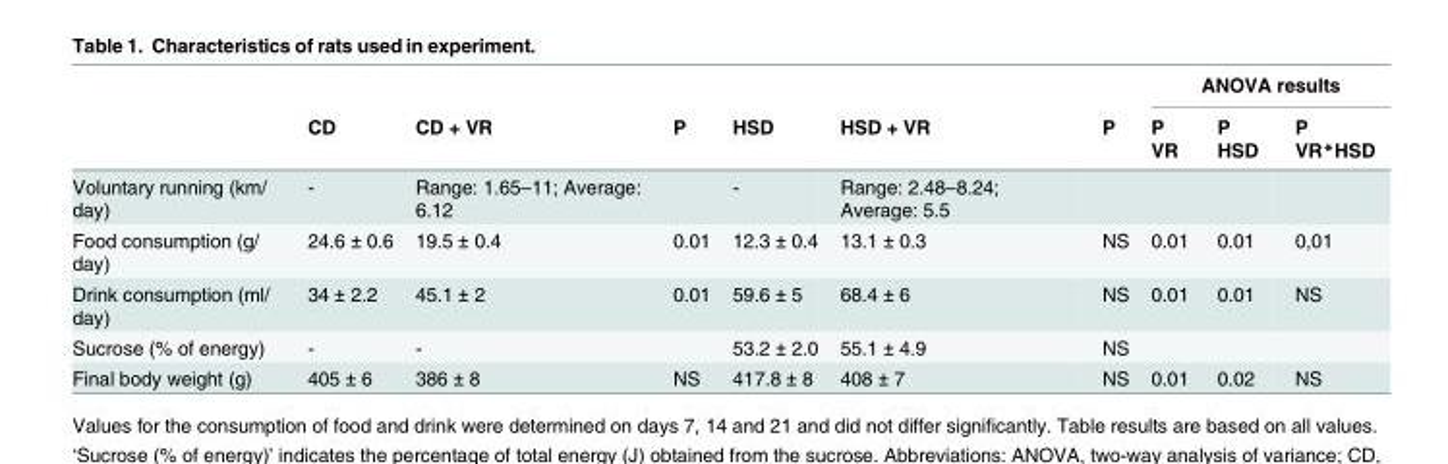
<table><thead><tr><td rowspan="2"></td><td rowspan="2">CD</td><td rowspan="2">CD + VR</td><td rowspan="2">P</td><td rowspan="2">HSD</td><td rowspan="2">HSD + VR</td><td rowspan="2">P</td><td colspan="3">ANOVA results</td></tr><tr><td>P VR</td><td>P HSD</td><td>P VR*HSD</td></tr></thead><tbody><tr><td>Voluntary running (km/ day)</td><td>-</td><td>Range: 1.65–11; Average: 6.12</td><td></td><td>-</td><td>Range: 2.48–8.24; Average: 5.5</td><td></td><td></td><td></td><td></td></tr><tr><td>Food consumption (g/ day)</td><td>24.6 ± 0.6</td><td>19.5 ± 0.4</td><td>0.01</td><td>12.3 ± 0.4</td><td>13.1 ± 0.3</td><td>NS</td><td>0.01</td><td>0.01</td><td>0,01</td></tr><tr><td>Drink consumption (ml/ day)</td><td>34 ± 2.2</td><td>45.1 ± 2</td><td>0.01</td><td>59.6 ± 5</td><td>68.4 ± 6</td><td>NS</td><td>0.01</td><td>0.01</td><td>NS</td></tr><tr><td>Sucrose (% of energy)</td><td>-</td><td>-</td><td></td><td>53.2 ± 2.0</td><td>55.1 ± 4.9</td><td>NS</td><td></td><td></td><td></td></tr><tr><td>Final body weight (g)</td><td>405 ± 6</td><td>386 ± 8</td><td>NS</td><td>417.8 ± 8</td><td>408 ± 7</td><td>NS</td><td>0.01</td><td>0.02</td><td>NS</td></tr></tbody></table>